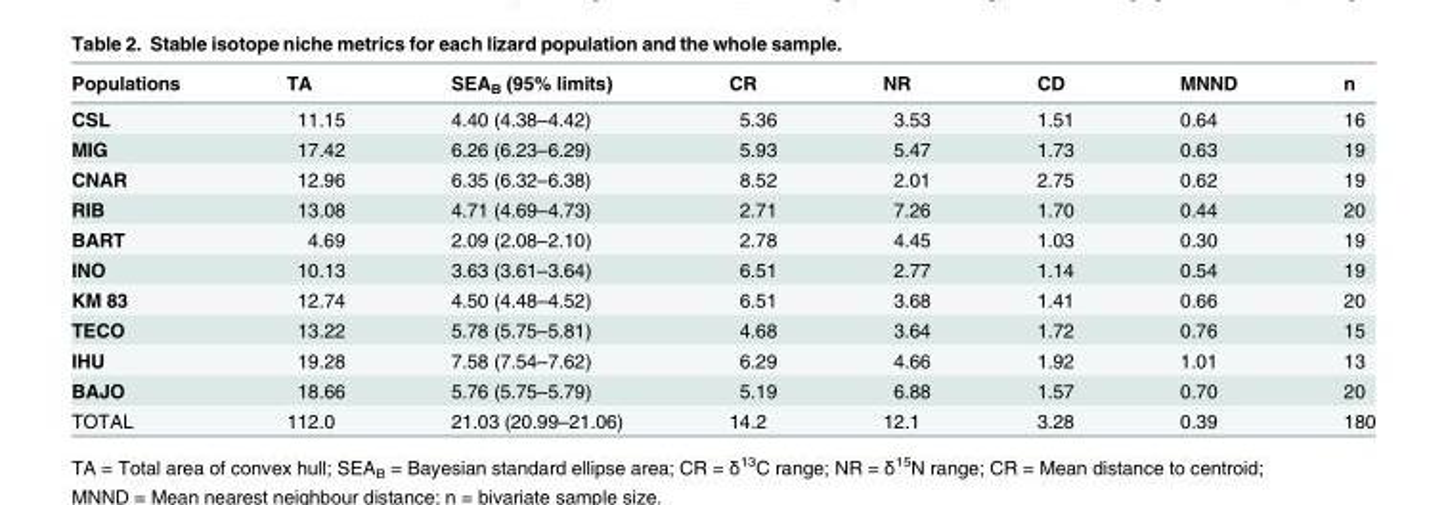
<table><thead><tr><td>Populations</td><td>TA</td><td>SEA<sub>B</sub> (95% limits)</td><td>CR</td><td>NR</td><td>CD</td><td>MNND</td><td>n</td></tr></thead><tbody><tr><td>CSL</td><td>11.15</td><td>4.40 (4.38–4.42)</td><td>5.36</td><td>3.53</td><td>1.51</td><td>0.64</td><td>16</td></tr><tr><td>MIG</td><td>17.42</td><td>6.26 (6.23–6.29)</td><td>5.93</td><td>5.47</td><td>1.73</td><td>0.63</td><td>19</td></tr><tr><td>CNAR</td><td>12.96</td><td>6.35 (6.32–6.38)</td><td>8.52</td><td>2.01</td><td>2.75</td><td>0.62</td><td>19</td></tr><tr><td>RIB</td><td>13.08</td><td>4.71 (4.69–4.73)</td><td>2.71</td><td>7.26</td><td>1.70</td><td>0.44</td><td>20</td></tr><tr><td>BART</td><td>4.69</td><td>2.09 (2.08–2.10)</td><td>2.78</td><td>4.45</td><td>1.03</td><td>0.30</td><td>19</td></tr><tr><td>INO</td><td>10.13</td><td>3.63 (3.61–3.64)</td><td>6.51</td><td>2.77</td><td>1.14</td><td>0.54</td><td>19</td></tr><tr><td>KM 83</td><td>12.74</td><td>4.50 (4.48–4.52)</td><td>6.51</td><td>3.68</td><td>1.41</td><td>0.66</td><td>20</td></tr><tr><td>TECO</td><td>13.22</td><td>5.78 (5.75–5.81)</td><td>4.68</td><td>3.64</td><td>1.72</td><td>0.76</td><td>15</td></tr><tr><td>IHU</td><td>19.28</td><td>7.58 (7.54–7.62)</td><td>6.29</td><td>4.66</td><td>1.92</td><td>1.01</td><td>13</td></tr><tr><td>BAJO</td><td>18.66</td><td>5.76 (5.75–5.79)</td><td>5.19</td><td>6.88</td><td>1.57</td><td>0.70</td><td>20</td></tr><tr><td>TOTAL</td><td>112.0</td><td>21.03 (20.99–21.06)</td><td>14.2</td><td>12.1</td><td>3.28</td><td>0.39</td><td>180</td></tr></tbody></table>